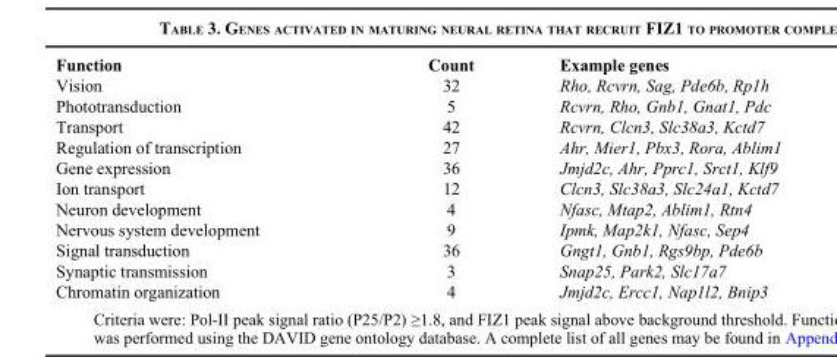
<table><thead><tr><td>Function</td><td>Count</td><td>Example genes</td></tr></thead><tbody><tr><td>Vision</td><td>32</td><td>Rho, Rcvrn, Sag, Pde6b, Rp1h</td></tr><tr><td>Phototransduction</td><td>5</td><td>Rcvrn, Rho, Gnb1, Gnat1, Pdc</td></tr><tr><td>Transport</td><td>42</td><td>Rcvrn, Clcn3, Slc38a3, Kctd7</td></tr><tr><td>Regulation of transcription</td><td>27</td><td>Ahr, Mier1, Pbx3, Rora, Ablim1</td></tr><tr><td>Gene expression</td><td>36</td><td>Jmjd2c, Ahr, Pprc1, Srct1, Klf9</td></tr><tr><td>Ion transport</td><td>12</td><td>Clcn3, Slc38a3, Slc24a1, Kctd7</td></tr><tr><td>Neuron development</td><td>4</td><td>Nfasc, Mtap2, Ablim1, Rtn4</td></tr><tr><td>Nervous system development</td><td>9</td><td>Ipmk, Map2k1, Nfasc, Sep4</td></tr><tr><td>Signal transduction</td><td>36</td><td>Gngt1, Gnb1, Rgs9bp, Pde6b</td></tr><tr><td>Synaptic transmission</td><td>3</td><td>Snap25, Park2, Slc17a7</td></tr><tr><td>Chromatin organization</td><td>4</td><td>Jmjd2c, Ercc1, Nap1l2, Bnip3</td></tr></tbody></table>